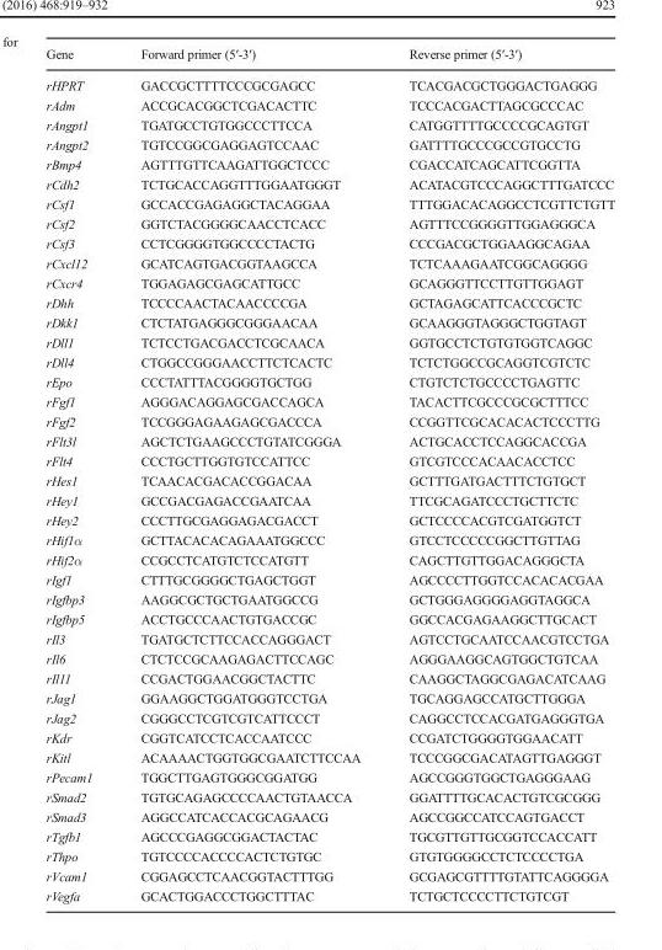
<table><thead><tr><td>Gene</td><td>Forward primer (5′-3′)</td><td>Reverse primer (5′-3′)</td></tr></thead><tbody><tr><td>rHPRT</td><td>GACCGCTTTTCCCGCGAGCC</td><td>TCACGACGCTGGGACTGAGGG</td></tr><tr><td>rAdm</td><td>ACCGCACGGCTCGACACTTC</td><td>TCCCACGACTTAGCGCCCAC</td></tr><tr><td>rAngpt1</td><td>TGATGCCTGTGGCCCTTCCA</td><td>CATGGTTTTGCCCCGCAGTGT</td></tr><tr><td>rAngpt2</td><td>TGTCCGGCGAGGAGTCCAAC</td><td>GATTTTGCCCGCCGTGCCTG</td></tr><tr><td>rBmp4</td><td>AGTTTGTTCAAGATTGGCTCCC</td><td>CGACCATCAGCATTCGGTTA</td></tr><tr><td>rCdh2</td><td>TCTGCACCAGGTTTGGAATGGGT</td><td>ACATACGTCCCAGGCTTTGATCCC</td></tr><tr><td>rCsf1</td><td>GCCACCGAGAGGCTACAGGAA</td><td>TTTGGACACAGGCCTCGTTCTGTT</td></tr><tr><td>rCsf2</td><td>GGTCTACGGGGCAACCTCACC</td><td>AGTTTCCGGGGTTGGAGGGCA</td></tr><tr><td>rCsf3</td><td>CCTCGGGGTGGCCCCTACTG</td><td>CCCGACGCTGGAAGGCAGAA</td></tr><tr><td>rCxcl12</td><td>GCATCAGTGACGGTAAGCCA</td><td>TCTCAAAGAATCGGCAGGGG</td></tr><tr><td>rCxcr4</td><td>TGGAGAGCGAGCATTGCC</td><td>GCAGGGTTCCTTGTTGGAGT</td></tr><tr><td>rDhh</td><td>TCCCCAACTACAACCCCGA</td><td>GCTAGAGCATTCACCCGCTC</td></tr><tr><td>rDkk1</td><td>CTCTATGAGGGCGGGAACAA</td><td>GCAAGGGTAGGGCTGGTAGT</td></tr><tr><td>rDll1</td><td>TCTCCTGACGACCTCGCAACA</td><td>GGTGCCTCTGTGTGGTCAGGC</td></tr><tr><td>rDll4</td><td>CTGGCCGGGAACCTTCTCACTC</td><td>TCTCTGGCCGCAGGTCGTCTC</td></tr><tr><td>rEpo</td><td>CCCTATTTACGGGGTGCTGG</td><td>CTGTCTCTGCCCCTGAGTTC</td></tr><tr><td>rFgf1</td><td>AGGGACAGGAGCGACCAGCA</td><td>TACACTTCGCCCGCGCTTTCC</td></tr><tr><td>rFgf2</td><td>TCCGGGAGAAGAGCGACCCA</td><td>CCGGTTCGCACACACTCCCTTG</td></tr><tr><td>rFlt3l</td><td>AGCTCTGAAGCCCTGTATCGGGA</td><td>ACTGCACCTCCAGGCACCGA</td></tr><tr><td>rFlt4</td><td>CCCTGCTTGGTGTCCATTCC</td><td>GTCGTCCCACAACACCTCC</td></tr><tr><td>rHes1</td><td>TCAACACGACACCGGACAA</td><td>GCTTTGATGACTTTCTGTGCT</td></tr><tr><td>rHey1</td><td>GCCGACGAGACCGAATCAA</td><td>TTCGCAGATCCCTGCTTCTC</td></tr><tr><td>rHey2</td><td>CCCTTGCGAGGAGACGACCT</td><td>GCTCCCCACGTCGATGGTCT</td></tr><tr><td>rHif1α</td><td>GCTTACACACAGAAATGGCCC</td><td>GTCCTCCCCCGGCTTGTTAG</td></tr><tr><td>rHif2α</td><td>CCGCCTCATGTCTCCATGTT</td><td>CAGCTTGTTGGACAGGGCTA</td></tr><tr><td>rIgf1</td><td>CTTTGCGGGGCTGAGCTGGT</td><td>AGCCCCTTGGTCCACACACGAA</td></tr><tr><td>rIgfbp3</td><td>AAGGCGCTGCTGAATGGCCG</td><td>GCTGGGAGGGGAGGTAGGCA</td></tr><tr><td>rIgfbp5</td><td>ACCTGCCCAACTGTGACCGC</td><td>GGCCACGAGAAGGCTTGCACT</td></tr><tr><td>rIl3</td><td>TGATGCTCTTCCACCAGGGACT</td><td>AGTCCTGCAATCCAACGTCCTGA</td></tr><tr><td>rIl6</td><td>CTCTCCGCAAGAGACTTCCAGC</td><td>AGGGAAGGCAGTGGCTGTCAA</td></tr><tr><td>rIl11</td><td>CCGACTGGAACGGCTACTTC</td><td>CAAGGCTAGGCGAGACATCAAG</td></tr><tr><td>rJag1</td><td>GGAAGGCTGGATGGGTCCTGA</td><td>TGCAGGAGCCATGCTTGGGA</td></tr><tr><td>rJag2</td><td>CGGGCCTCGTCGTCATTCCCT</td><td>CAGGCCTCCACGATGAGGGTGA</td></tr><tr><td>rKdr</td><td>CGGTCATCCTCACCAATCCC</td><td>CCGATCTGGGGTGGAACATT</td></tr><tr><td>rKitl</td><td>ACAAAACTGGTGGCGAATCTTCCAA</td><td>TCCCGGCGACATAGTTGAGGGT</td></tr><tr><td>rPecam1</td><td>TGGCTTGAGTGGGCGGATGG</td><td>AGCCGGGTGGCTGAGGGAAG</td></tr><tr><td>rSmad2</td><td>TGTGCAGAGCCCCAACTGTAACCA</td><td>GGATTTTGCACACTGTCGCGGG</td></tr><tr><td>rSmad3</td><td>AGGCCATCACCACGCAGAACG</td><td>AGCCGGCCATCCAGTGACCT</td></tr><tr><td>rTgfb1</td><td>AGCCCGAGGCGGACTACTAC</td><td>TGCGTTGTTGCGGTCCACCATT</td></tr><tr><td>rThpo</td><td>TGTCCCCACCCCACTCTGTGC</td><td>GTGTGGGGCCTCTCCCCTGA</td></tr><tr><td>rVcam1</td><td>CGGAGCCTCAACGGTACTTTGG</td><td>GCGAGCGTTTTGTATTCAGGGGA</td></tr><tr><td>rVegfa</td><td>GCACTGGACCCTGGCTTTAC</td><td>TCTGCTCCCCTTCTGTCGT</td></tr></tbody></table>